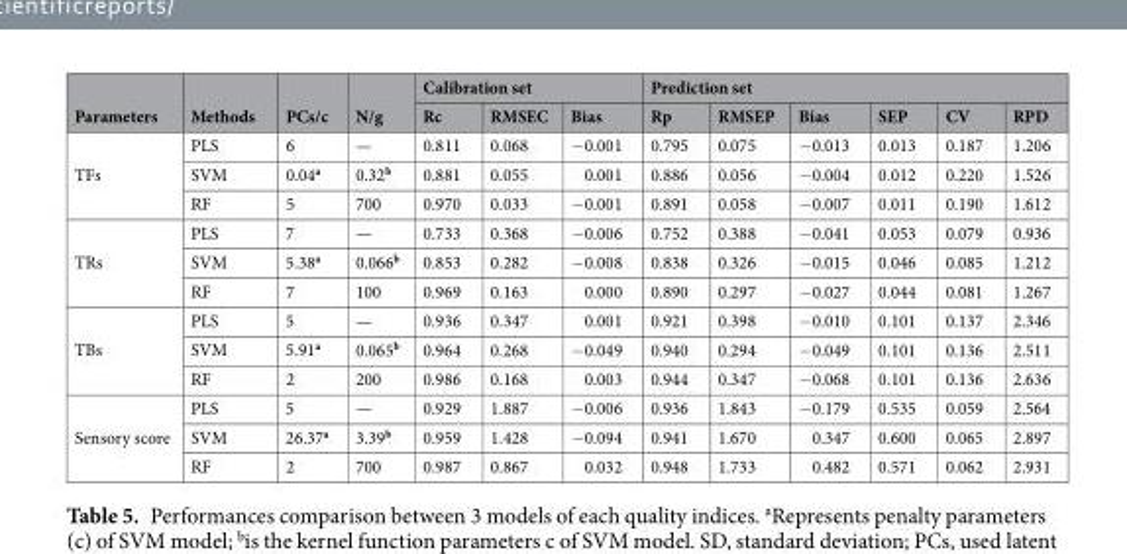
<table><thead><tr><td rowspan="2">Parameters</td><td rowspan="2">Methods</td><td rowspan="2">PCs/c</td><td rowspan="2">N/g</td><td colspan="3">Calibration set</td><td colspan="6">Prediction set</td></tr><tr><td>Rc</td><td>RMSEC</td><td>Bias</td><td>Rp</td><td>RMSEP</td><td>Bias</td><td>SEP</td><td>CV</td><td>RPD</td></tr></thead><tbody><tr><td rowspan="3">TFs</td><td>PLS</td><td>6</td><td>—</td><td>0.811</td><td>0.068</td><td>−0.001</td><td>0.795</td><td>0.075</td><td>−0.013</td><td>0.013</td><td>0.187</td><td>1.206</td></tr><tr><td>SVM</td><td>0.04<sup>a</sup></td><td>0.32<sup>b</sup></td><td>0.881</td><td>0.055</td><td>0.001</td><td>0.886</td><td>0.056</td><td>−0.004</td><td>0.012</td><td>0.220</td><td>1.526</td></tr><tr><td>RF</td><td>5</td><td>700</td><td>0.970</td><td>0.033</td><td>−0.001</td><td>0.891</td><td>0.058</td><td>−0.007</td><td>0.011</td><td>0.190</td><td>1.612</td></tr><tr><td rowspan="3">TRs</td><td>PLS</td><td>7</td><td>—</td><td>0.733</td><td>0.368</td><td>−0.006</td><td>0.752</td><td>0.388</td><td>−0.041</td><td>0.053</td><td>0.079</td><td>0.936</td></tr><tr><td>SVM</td><td>5.38<sup>a</sup></td><td>0.066<sup>b</sup></td><td>0.853</td><td>0.282</td><td>−0.008</td><td>0.838</td><td>0.326</td><td>−0.015</td><td>0.046</td><td>0.085</td><td>1.212</td></tr><tr><td>RF</td><td>7</td><td>100</td><td>0.969</td><td>0.163</td><td>0.000</td><td>0.890</td><td>0.297</td><td>−0.027</td><td>0.044</td><td>0.081</td><td>1.267</td></tr><tr><td rowspan="3">TBs</td><td>PLS</td><td>5</td><td>—</td><td>0.936</td><td>0.347</td><td>0.001</td><td>0.921</td><td>0.398</td><td>−0.010</td><td>0.101</td><td>0.137</td><td>2.346</td></tr><tr><td>SVM</td><td>5.91<sup>a</sup></td><td>0.065<sup>b</sup></td><td>0.964</td><td>0.268</td><td>−0.049</td><td>0.940</td><td>0.294</td><td>−0.049</td><td>0.101</td><td>0.136</td><td>2.511</td></tr><tr><td>RF</td><td>2</td><td>200</td><td>0.986</td><td>0.168</td><td>0.003</td><td>0.944</td><td>0.347</td><td>−0.068</td><td>0.101</td><td>0.136</td><td>2.636</td></tr><tr><td rowspan="3">Sensory score</td><td>PLS</td><td>5</td><td>—</td><td>0.929</td><td>1.887</td><td>−0.006</td><td>0.936</td><td>1.843</td><td>−0.179</td><td>0.535</td><td>0.059</td><td>2.564</td></tr><tr><td>SVM</td><td>26.37<sup>a</sup></td><td>3.39<sup>b</sup></td><td>0.959</td><td>1.428</td><td>−0.094</td><td>0.941</td><td>1.670</td><td>0.347</td><td>0.600</td><td>0.065</td><td>2.897</td></tr><tr><td>RF</td><td>2</td><td>700</td><td>0.987</td><td>0.867</td><td>0.032</td><td>0.948</td><td>1.733</td><td>0.482</td><td>0.571</td><td>0.062</td><td>2.931</td></tr></tbody></table>